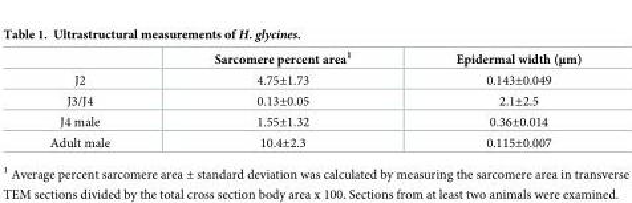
<table><thead><tr><td></td><td>Sarcomere percent area<sup>1</sup></td><td>Epidermal width (μm)</td></tr></thead><tbody><tr><td>J2</td><td>4.75±1.73</td><td>0.143±0.049</td></tr><tr><td>J3/J4</td><td>0.13±0.05</td><td>2.1±2.5</td></tr><tr><td>J4 male</td><td>1.55±1.32</td><td>0.36±0.014</td></tr><tr><td>Adult male</td><td>10.4±2.3</td><td>0.115±0.007</td></tr></tbody></table>